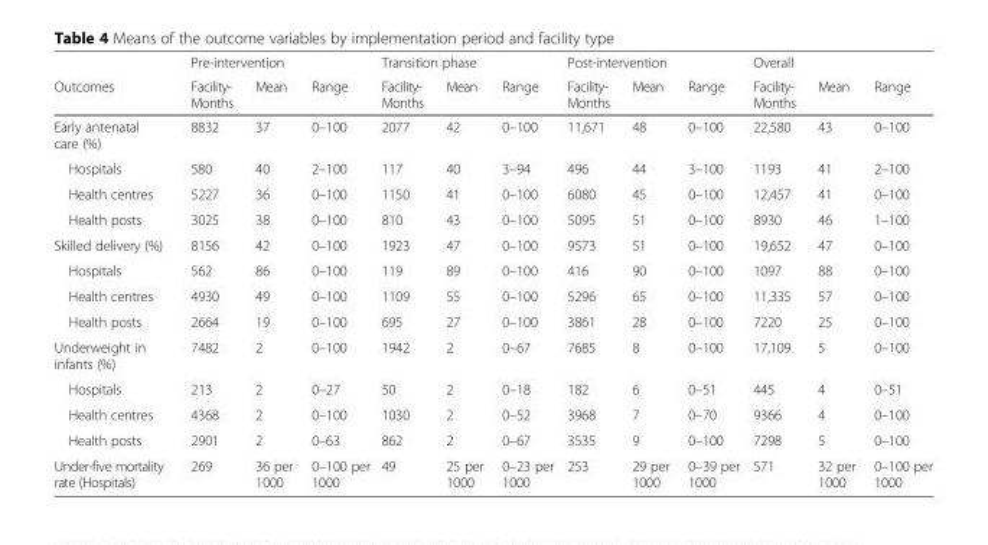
<table><thead><tr><td rowspan="2">Outcomes</td><td colspan="3">Pre-intervention</td><td colspan="3">Transition phase</td><td colspan="3">Post-intervention</td><td colspan="3">Overall</td></tr><tr><td>Facility- Months</td><td>Mean</td><td>Range</td><td>Facility- Months</td><td>Mean</td><td>Range</td><td>Facility- Months</td><td>Mean</td><td>Range</td><td>Facility- Months</td><td>Mean</td><td>Range</td></tr></thead><tbody><tr><td>Early antenatal care (%)</td><td>8832</td><td>37</td><td>0–100</td><td>2077</td><td>42</td><td>0–100</td><td>11,671</td><td>48</td><td>0–100</td><td>22,580</td><td>43</td><td>0–100</td></tr><tr><td>Hospitals</td><td>580</td><td>40</td><td>2–100</td><td>117</td><td>40</td><td>3–94</td><td>496</td><td>44</td><td>3–100</td><td>1193</td><td>41</td><td>2–100</td></tr><tr><td>Health centres</td><td>5227</td><td>36</td><td>0–100</td><td>1150</td><td>41</td><td>0–100</td><td>6080</td><td>45</td><td>0–100</td><td>12,457</td><td>41</td><td>0–100</td></tr><tr><td>Health posts</td><td>3025</td><td>38</td><td>0–100</td><td>810</td><td>43</td><td>0–100</td><td>5095</td><td>51</td><td>0–100</td><td>8930</td><td>46</td><td>1–100</td></tr><tr><td>Skilled delivery (%)</td><td>8156</td><td>42</td><td>0–100</td><td>1923</td><td>47</td><td>0–100</td><td>9573</td><td>51</td><td>0–100</td><td>19,652</td><td>47</td><td>0–100</td></tr><tr><td>Hospitals</td><td>562</td><td>86</td><td>0–100</td><td>119</td><td>89</td><td>0–100</td><td>416</td><td>90</td><td>0–100</td><td>1097</td><td>88</td><td>0–100</td></tr><tr><td>Health centres</td><td>4930</td><td>49</td><td>0–100</td><td>1109</td><td>55</td><td>0–100</td><td>5296</td><td>65</td><td>0–100</td><td>11,335</td><td>57</td><td>0–100</td></tr><tr><td>Health posts</td><td>2664</td><td>19</td><td>0–100</td><td>695</td><td>27</td><td>0–100</td><td>3861</td><td>28</td><td>0–100</td><td>7220</td><td>25</td><td>0–100</td></tr><tr><td>Underweight in infants (%)</td><td>7482</td><td>2</td><td>0–100</td><td>1942</td><td>2</td><td>0–67</td><td>7685</td><td>8</td><td>0–100</td><td>17,109</td><td>5</td><td>0–100</td></tr><tr><td>Hospitals</td><td>213</td><td>2</td><td>0–27</td><td>50</td><td>2</td><td>0–18</td><td>182</td><td>6</td><td>0–51</td><td>445</td><td>4</td><td>0–51</td></tr><tr><td>Health centres</td><td>4368</td><td>2</td><td>0–100</td><td>1030</td><td>2</td><td>0–52</td><td>3968</td><td>7</td><td>0–70</td><td>9366</td><td>4</td><td>0–100</td></tr><tr><td>Health posts</td><td>2901</td><td>2</td><td>0–63</td><td>862</td><td>2</td><td>0–67</td><td>3535</td><td>9</td><td>0–100</td><td>7298</td><td>5</td><td>0–100</td></tr><tr><td>Under-five mortality rate (Hospitals)</td><td>269</td><td>36 per 1000</td><td>0–100 per 1000</td><td>49</td><td>25 per 1000</td><td>0–23 per 1000</td><td>253</td><td>29 per 1000</td><td>0–39 per 1000</td><td>571</td><td>32 per 1000</td><td>0–100 per 1000</td></tr></tbody></table>